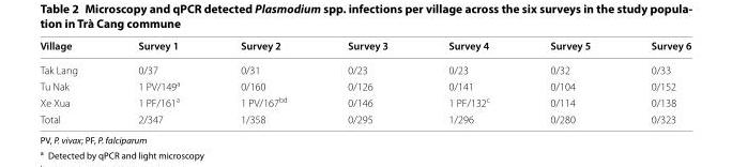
<table><thead><tr><td>Village</td><td>Survey 1</td><td>Survey 2</td><td>Survey 3</td><td>Survey 4</td><td>Survey 5</td><td>Survey 6</td></tr></thead><tbody><tr><td>Tak Lang</td><td>0/37</td><td>0/31</td><td>0/23</td><td>0/23</td><td>0/32</td><td>0/33</td></tr><tr><td>Tu Nak</td><td>1 PV/149<sup>a</sup></td><td>0/160</td><td>0/126</td><td>0/141</td><td>0/104</td><td>0/152</td></tr><tr><td>Xe Xua</td><td>1 PF/161<sup>a</sup></td><td>1 PV/167<sup>bd</sup></td><td>0/146</td><td>1 PF/132<sup>c</sup></td><td>0/114</td><td>0/138</td></tr><tr><td>Total</td><td>2/347</td><td>1/358</td><td>0/295</td><td>1/296</td><td>0/280</td><td>0/323</td></tr></tbody></table>